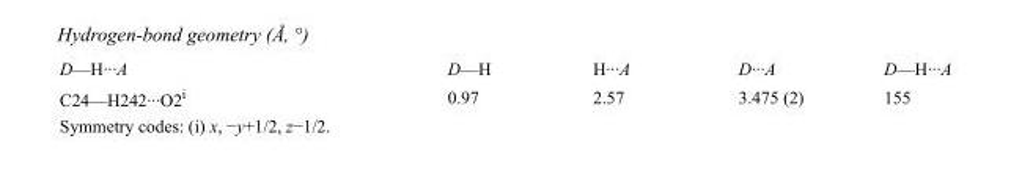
<table><tbody><tr><td>D—H···A</td><td>D—H</td><td>H···A</td><td>D···A</td><td>D—H···A</td></tr><tr><td>C24—H242···O2<sup>i</sup></td><td>0.97</td><td>2.57</td><td>3.475 (2)</td><td>155</td></tr></tbody></table>